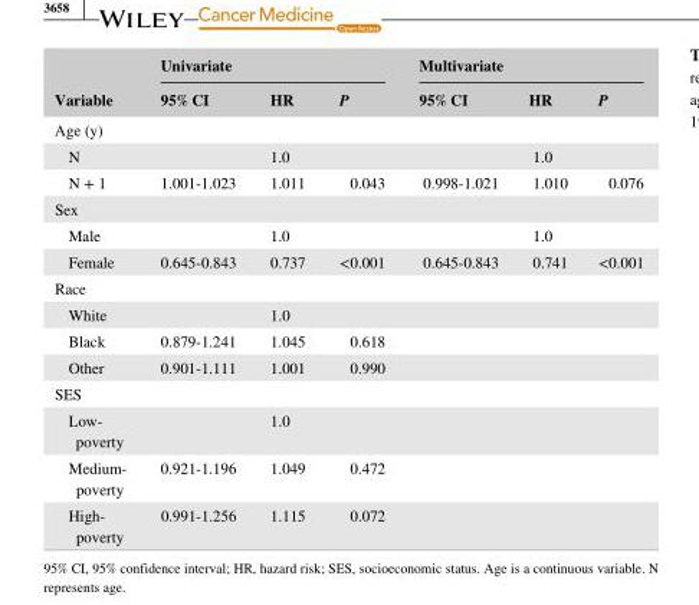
<table><thead><tr><td rowspan="2">Variable</td><td colspan="3">Univariate</td><td colspan="3">Multivariate</td></tr><tr><td>95% CI</td><td>HR</td><td>P</td><td>95% CI</td><td>HR</td><td>P</td></tr></thead><tbody><tr><td colspan="7">Age (y)</td></tr><tr><td>N</td><td></td><td>1.0</td><td></td><td></td><td>1.0</td><td></td></tr><tr><td>N + 1</td><td>1.001- 1.023</td><td>1.011</td><td>0.043</td><td>0.998- 1.021</td><td>1.010</td><td>0.076</td></tr><tr><td colspan="7">Sex</td></tr><tr><td>Male</td><td></td><td>1.0</td><td></td><td></td><td>1.0</td><td></td></tr><tr><td>Female</td><td>0.645- 0.843</td><td>0.737</td><td>&lt;0.001</td><td>0.645- 0.843</td><td>0.741</td><td>&lt;0.001</td></tr><tr><td colspan="7">Race</td></tr><tr><td>White</td><td></td><td>1.0</td><td></td><td></td><td></td><td></td></tr><tr><td>Black</td><td>0.879- 1.241</td><td>1.045</td><td>0.618</td><td></td><td></td><td></td></tr><tr><td>Other</td><td>0.901- 1.111</td><td>1.001</td><td>0.990</td><td></td><td></td><td></td></tr><tr><td colspan="7">SES</td></tr><tr><td>Low- poverty</td><td></td><td>1.0</td><td></td><td></td><td></td><td></td></tr><tr><td>Medium- poverty</td><td>0.921- 1.196</td><td>1.049</td><td>0.472</td><td></td><td></td><td></td></tr><tr><td>High- poverty</td><td>0.991- 1.256</td><td>1.115</td><td>0.072</td><td></td><td></td><td></td></tr></tbody></table>